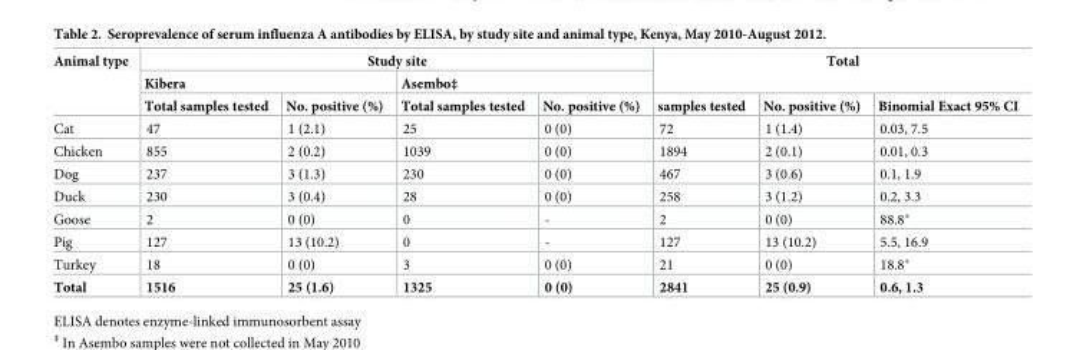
<table><thead><tr><td rowspan="3">Animal type</td><td colspan="4">Study site</td><td rowspan="2" colspan="3">Total</td></tr><tr><td colspan="2">Kibera</td><td colspan="2">Asembo‡</td></tr><tr><td>Total samples tested</td><td>No. positive (%)</td><td>Total samples tested</td><td>No. positive (%)</td><td>samples tested</td><td>No. positive (%)</td><td>Binomial Exact 95% CI</td></tr></thead><tbody><tr><td>Cat</td><td>47</td><td>1 (2.1)</td><td>25</td><td>0 (0)</td><td>72</td><td>1 (1.4)</td><td>0.03, 7.5</td></tr><tr><td>Chicken</td><td>855</td><td>2 (0.2)</td><td>1039</td><td>0 (0)</td><td>1894</td><td>2 (0.1)</td><td>0.01, 0.3</td></tr><tr><td>Dog</td><td>237</td><td>3 (1.3)</td><td>230</td><td>0 (0)</td><td>467</td><td>3 (0.6)</td><td>0.1, 1.9</td></tr><tr><td>Duck</td><td>230</td><td>3 (0.4)</td><td>28</td><td>0 (0)</td><td>258</td><td>3 (1.2)</td><td>0.2, 3.3</td></tr><tr><td>Goose</td><td>2</td><td>0 (0)</td><td>0</td><td>-</td><td>2</td><td>0 (0)</td><td>88.8*</td></tr><tr><td>Pig</td><td>127</td><td>13 (10.2)</td><td>0</td><td>-</td><td>127</td><td>13 (10.2)</td><td>5.5, 16.9</td></tr><tr><td>Turkey</td><td>18</td><td>0 (0)</td><td>3</td><td>0 (0)</td><td>21</td><td>0 (0)</td><td>18.8*</td></tr><tr><td>Total</td><td>1516</td><td>25 (1.6)</td><td>1325</td><td>0 (0)</td><td>2841</td><td>25 (0.9)</td><td>0.6, 1.3</td></tr></tbody></table>